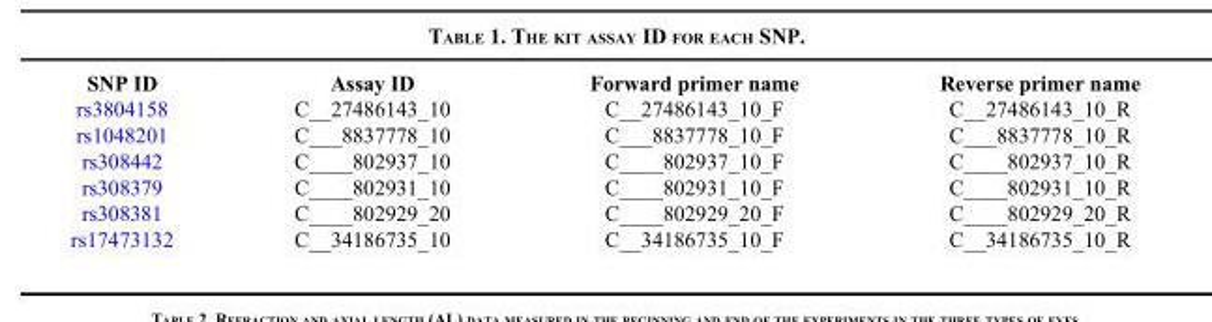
<table><thead><tr><td>SNP ID</td><td>Assay ID</td><td>Forward primer name</td><td>Reverse primer name</td></tr></thead><tbody><tr><td>rs3804158</td><td>C__27486143_10</td><td>C__27486143_10_F</td><td>C__27486143_10_R</td></tr><tr><td>rs1048201</td><td>C___8837778_10</td><td>C___8837778_10_F</td><td>C___8837778_10_R</td></tr><tr><td>rs308442</td><td>C____802937_10</td><td>C____802937_10_F</td><td>C____802937_10_R</td></tr><tr><td>rs308379</td><td>C____802931_10</td><td>C____802931_10_F</td><td>C____802931_10_R</td></tr><tr><td>rs308381</td><td>C____802929_20</td><td>C____802929_20_F</td><td>C____802929_20_R</td></tr><tr><td>rs17473132</td><td>C__34186735_10</td><td>C__34186735_10_F</td><td>C__34186735_10_R</td></tr></tbody></table>